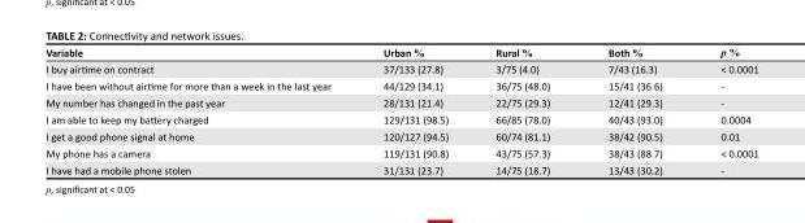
<table><thead><tr><td>Variable</td><td>Urban %</td><td>Rural %</td><td>Both %</td><td>p %</td></tr></thead><tbody><tr><td>I buy airtime on contract</td><td>37/133 (27.8)</td><td>3/75 (4.0)</td><td>7/43 (16.3)</td><td>&lt; 0.0001</td></tr><tr><td>I have been without airtime for more than a week in the last year</td><td>44/129 (34.1)</td><td>36/75 (48.0)</td><td>15/41 (36.6)</td><td>-</td></tr><tr><td>My number has changed in the past year</td><td>28/131 (21.4)</td><td>22/75 (29.3)</td><td>12/41 (29.3)</td><td>-</td></tr><tr><td>I am able to keep my battery charged</td><td>129/131 (98.5)</td><td>66/85 (78.0)</td><td>40/43 (93.0)</td><td>0.0004</td></tr><tr><td>I get a good phone signal at home</td><td>120/127 (94.5)</td><td>60/74 (81.1)</td><td>38/42 (90.5)</td><td>0.01</td></tr><tr><td>My phone has a camera</td><td>119/131 (90.8)</td><td>43/75 (57.3)</td><td>38/43 (88.7)</td><td>&lt; 0.0001</td></tr><tr><td>I have had a mobile phone stolen</td><td>31/131 (23.7)</td><td>14/75 (18.7)</td><td>13/43 (30.2)</td><td>-</td></tr></tbody></table>